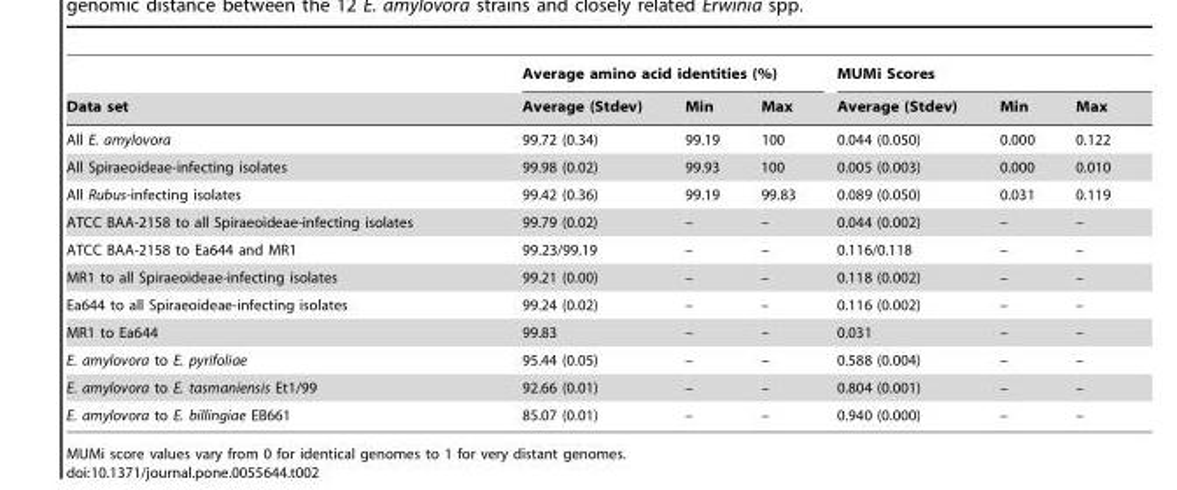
<table><thead><tr><td rowspan="2">Data set</td><td colspan="3">Average amino acid identities (%)</td><td colspan="3">MUMi Scores</td></tr><tr><td>Average (Stdev)</td><td>Min</td><td>Max</td><td>Average (Stdev)</td><td>Min</td><td>Max</td></tr></thead><tbody><tr><td>All E. amylovora</td><td>99.72 (0.34)</td><td>99.19</td><td>100</td><td>0.044 (0.050)</td><td>0.000</td><td>0.122</td></tr><tr><td>All Spiraeoideae-infecting isolates</td><td>99.98 (0.02)</td><td>99.93</td><td>100</td><td>0.005 (0.003)</td><td>0.000</td><td>0.010</td></tr><tr><td>All Rubus-infecting isolates</td><td>99.42 (0.36)</td><td>99.19</td><td>99.83</td><td>0.089 (0.050)</td><td>0.031</td><td>0.119</td></tr><tr><td>ATCC BAA-2158 to all Spiraeoideae-infecting isolates</td><td>99.79 (0.02)</td><td>–</td><td>–</td><td>0.044 (0.002)</td><td>–</td><td>–</td></tr><tr><td>ATCC BAA-2158 to Ea644 and MR1</td><td>99.23/99.19</td><td>–</td><td>–</td><td>0.116/0.118</td><td>–</td><td>–</td></tr><tr><td>MR1 to all Spiraeoideae-infecting isolates</td><td>99.21 (0.00)</td><td>–</td><td>–</td><td>0.118 (0.002)</td><td>–</td><td>–</td></tr><tr><td>Ea644 to all Spiraeoideae-infecting isolates</td><td>99.24 (0.02)</td><td>–</td><td>–</td><td>0.116 (0.002)</td><td>–</td><td>–</td></tr><tr><td>MR1 to Ea644</td><td>99.83</td><td>–</td><td>–</td><td>0.031</td><td>–</td><td>–</td></tr><tr><td>E. amylovora to E. pyrifoliae</td><td>95.44 (0.05)</td><td>–</td><td>–</td><td>0.588 (0.004)</td><td>–</td><td>–</td></tr><tr><td>E. amylovora to E. tasmaniensis Et1/99</td><td>92.66 (0.01)</td><td>–</td><td>–</td><td>0.804 (0.001)</td><td>–</td><td>–</td></tr><tr><td>E. amylovora to E. billingiae EB661</td><td>85.07 (0.01)</td><td>–</td><td>–</td><td>0.940 (0.000)</td><td>–</td><td>–</td></tr></tbody></table>